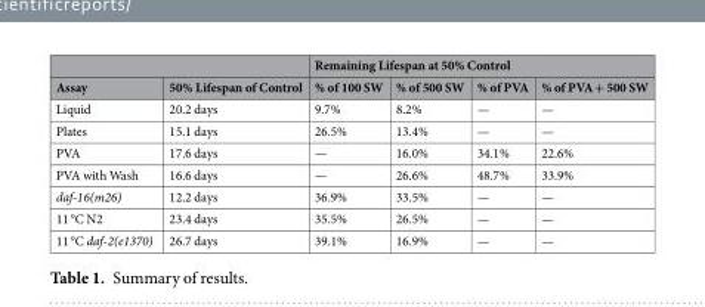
<table><thead><tr><td rowspan="2">Assay</td><td rowspan="2">50% Lifespan of Control</td><td colspan="4">Remaining Lifespan at 50% Control</td></tr><tr><td>% of 100 SW</td><td>% of 500 SW</td><td>% of PVA</td><td>% of PVA + 500 SW</td></tr></thead><tbody><tr><td>Liquid</td><td>20.2 days</td><td>9.7%</td><td>8.2%</td><td>—</td><td>—</td></tr><tr><td>Plates</td><td>15.1 days</td><td>26.5%</td><td>13.4%</td><td>—</td><td>—</td></tr><tr><td>PVA</td><td>17.6 days</td><td>—</td><td>16.0%</td><td>34.1%</td><td>22.6%</td></tr><tr><td>PVA with Wash</td><td>16.6 days</td><td>—</td><td>26.6%</td><td>48.7%</td><td>33.9%</td></tr><tr><td>daf-16(m26)</td><td>12.2 days</td><td>36.9%</td><td>33.5%</td><td>—</td><td>—</td></tr><tr><td>11 °C N2</td><td>23.4 days</td><td>35.5%</td><td>26.5%</td><td>—</td><td>—</td></tr><tr><td>11 °C daf-2(e1370)</td><td>26.7 days</td><td>39.1%</td><td>16.9%</td><td>—</td><td>—</td></tr></tbody></table>